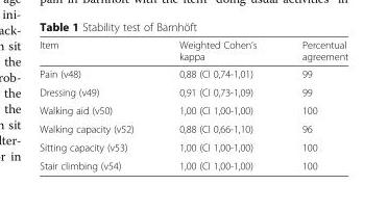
<table><thead><tr><td>Item</td><td>Weighted Cohen’s kappa</td><td>Percentual agreement</td></tr></thead><tbody><tr><td>Pain (v48)</td><td>0,88 (CI 0,74-1,01)</td><td>99</td></tr><tr><td>Dressing (v49)</td><td>0,91 (CI 0,73-1,09)</td><td>99</td></tr><tr><td>Walking aid (v50)</td><td>1,00 (CI 1,00-1,00)</td><td>100</td></tr><tr><td>Walking capacity (v52)</td><td>0,88 (CI 0,66-1,10)</td><td>96</td></tr><tr><td>Sitting capacity (v53)</td><td>1,00 (CI 1,00-1,00)</td><td>100</td></tr><tr><td>Stair climbing (v54)</td><td>1,00 (CI 1,00-1,00)</td><td>100</td></tr></tbody></table>